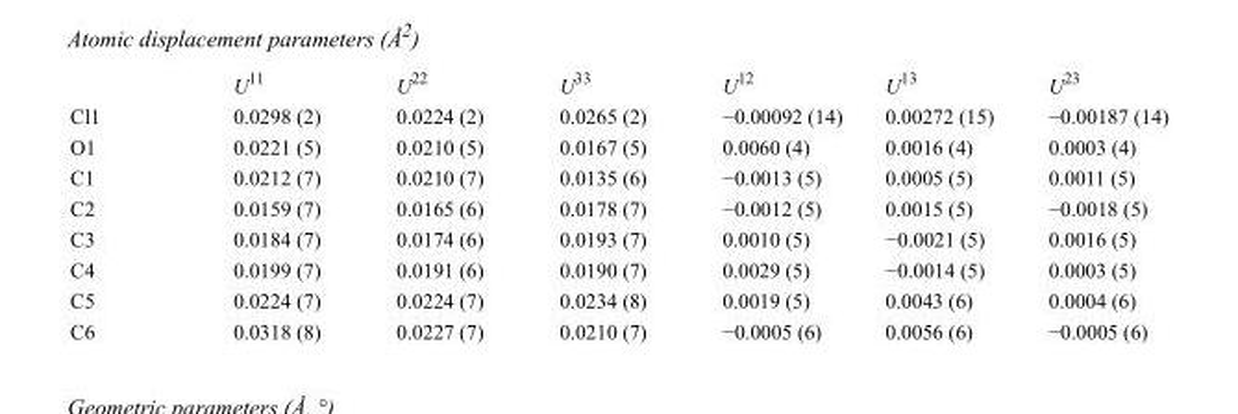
<table><thead><tr><td></td><td>U<sup>11</sup></td><td>U<sup>22</sup></td><td>U<sup>33</sup></td><td>U<sup>12</sup></td><td>U<sup>13</sup></td><td>U<sup>23</sup></td></tr></thead><tbody><tr><td>Cl1</td><td>0.0298 (2)</td><td>0.0224 (2)</td><td>0.0265 (2)</td><td>−0.00092 (14)</td><td>0.00272 (15)</td><td>−0.00187 (14)</td></tr><tr><td>O1</td><td>0.0221 (5)</td><td>0.0210 (5)</td><td>0.0167 (5)</td><td>0.0060 (4)</td><td>0.0016 (4)</td><td>0.0003 (4)</td></tr><tr><td>C1</td><td>0.0212 (7)</td><td>0.0210 (7)</td><td>0.0135 (6)</td><td>−0.0013 (5)</td><td>0.0005 (5)</td><td>0.0011 (5)</td></tr><tr><td>C2</td><td>0.0159 (7)</td><td>0.0165 (6)</td><td>0.0178 (7)</td><td>−0.0012 (5)</td><td>0.0015 (5)</td><td>−0.0018 (5)</td></tr><tr><td>C3</td><td>0.0184 (7)</td><td>0.0174 (6)</td><td>0.0193 (7)</td><td>0.0010 (5)</td><td>−0.0021 (5)</td><td>0.0016 (5)</td></tr><tr><td>C4</td><td>0.0199 (7)</td><td>0.0191 (6)</td><td>0.0190 (7)</td><td>0.0029 (5)</td><td>−0.0014 (5)</td><td>0.0003 (5)</td></tr><tr><td>C5</td><td>0.0224 (7)</td><td>0.0224 (7)</td><td>0.0234 (8)</td><td>0.0019 (5)</td><td>0.0043 (6)</td><td>0.0004 (6)</td></tr><tr><td>C6</td><td>0.0318 (8)</td><td>0.0227 (7)</td><td>0.0210 (7)</td><td>−0.0005 (6)</td><td>0.0056 (6)</td><td>−0.0005 (6)</td></tr></tbody></table>